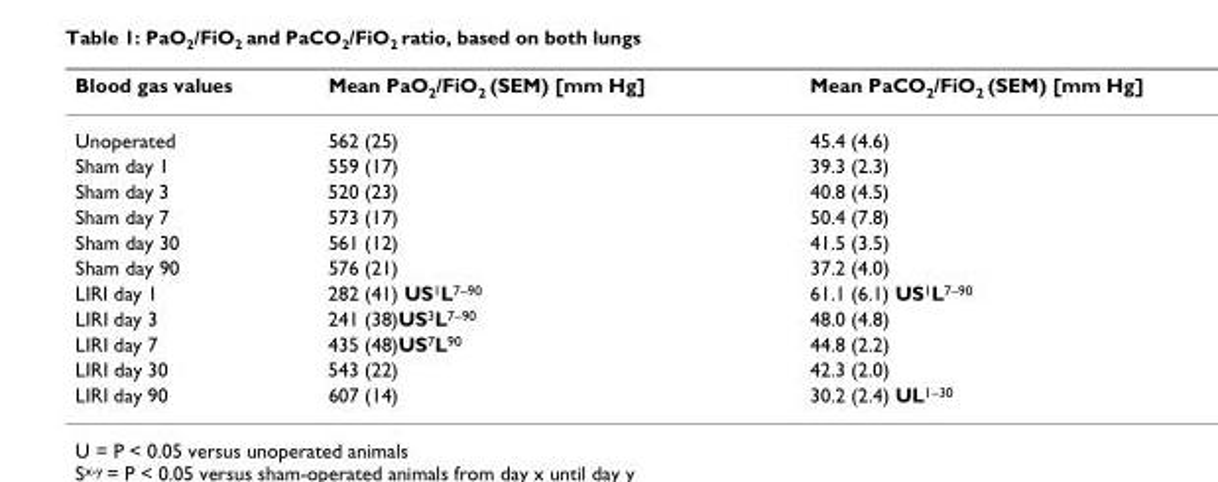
<table><thead><tr><td>Blood gas values</td><td>Mean PaO<sub>2</sub>/FiO<sub>2</sub> (SEM) [mm Hg]</td><td>Mean PaCO<sub>2</sub>/FiO<sub>2</sub> (SEM) [mm Hg]</td></tr></thead><tbody><tr><td>Unoperated</td><td>562 (25)</td><td>45.4 (4.6)</td></tr><tr><td>Sham day 1</td><td>559 (17)</td><td>39.3 (2.3)</td></tr><tr><td>Sham day 3</td><td>520 (23)</td><td>40.8 (4.5)</td></tr><tr><td>Sham day 7</td><td>573 (17)</td><td>50.4 (7.8)</td></tr><tr><td>Sham day 30</td><td>561 (12)</td><td>41.5 (3.5)</td></tr><tr><td>Sham day 90</td><td>576 (21)</td><td>37.2 (4.0)</td></tr><tr><td>LIRI day 1</td><td>282 (41) US<sup>1</sup>L<sup>7–90</sup></td><td>61.1 (6.1) US<sup>1</sup>L<sup>7–90</sup></td></tr><tr><td>LIRI day 3</td><td>241 (38)US<sup>3</sup>L<sup>7–90</sup></td><td>48.0 (4.8)</td></tr><tr><td>LIRI day 7</td><td>435 (48)US<sup>7</sup>L<sup>90</sup></td><td>44.8 (2.2)</td></tr><tr><td>LIRI day 30</td><td>543 (22)</td><td>42.3 (2.0)</td></tr><tr><td>LIRI day 90</td><td>607 (14)</td><td>30.2 (2.4) UL<sup>1–30</sup></td></tr></tbody></table>